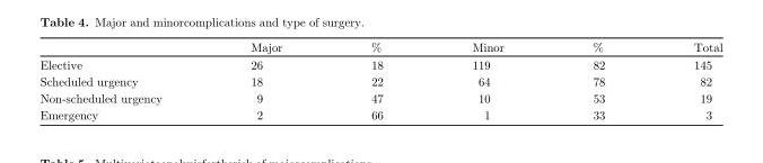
<table><thead><tr><td></td><td>Major</td><td>%</td><td>Minor</td><td>%</td><td>Total</td></tr></thead><tbody><tr><td>Elective</td><td>26</td><td>18</td><td>119</td><td>82</td><td>145</td></tr><tr><td>Scheduled urgency</td><td>18</td><td>22</td><td>64</td><td>78</td><td>82</td></tr><tr><td>Non-scheduled urgency</td><td>9</td><td>47</td><td>10</td><td>53</td><td>19</td></tr><tr><td>Emergency</td><td>2</td><td>66</td><td>1</td><td>33</td><td>3</td></tr></tbody></table>